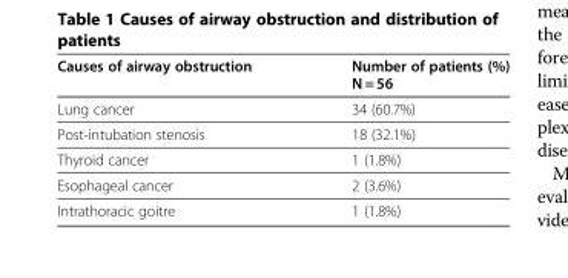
<table><thead><tr><td>Causes of airway obstruction</td><td>Number of patients (%) N = 56</td></tr></thead><tbody><tr><td>Lung cancer</td><td>34 (60.7%)</td></tr><tr><td>Post-intubation stenosis</td><td>18 (32.1%)</td></tr><tr><td>Thyroid cancer</td><td>1 (1.8%)</td></tr><tr><td>Esophageal cancer</td><td>2 (3.6%)</td></tr><tr><td>Intrathoracic goitre</td><td>1 (1.8%)</td></tr></tbody></table>